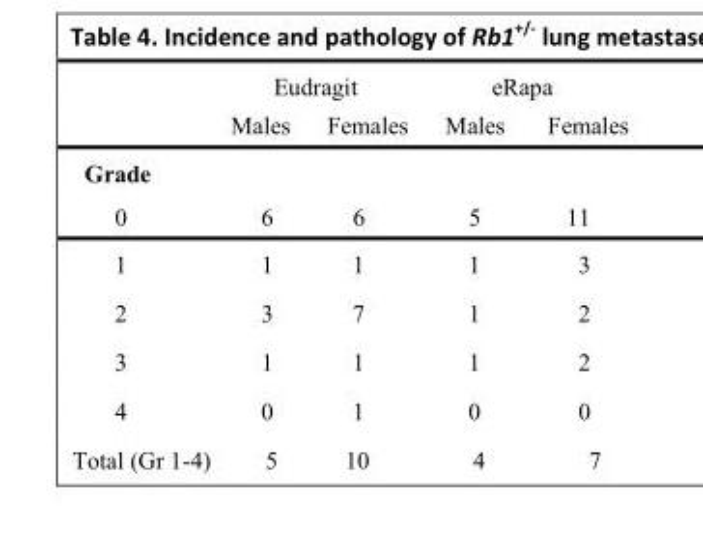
<table><thead><tr><td rowspan="2"></td><td colspan="2">Eudragit</td><td colspan="2">eRapa</td></tr><tr><td>Males</td><td>Females</td><td>Males</td><td>Females</td></tr></thead><tbody><tr><td colspan="5">Grade</td></tr><tr><td>0</td><td>6</td><td>6</td><td>5</td><td>11</td></tr><tr><td>1</td><td>1</td><td>1</td><td>1</td><td>3</td></tr><tr><td>2</td><td>3</td><td>7</td><td>1</td><td>2</td></tr><tr><td>3</td><td>1</td><td>1</td><td>1</td><td>2</td></tr><tr><td>4</td><td>0</td><td>1</td><td>0</td><td>0</td></tr><tr><td>Total (Gr 1-4)</td><td>5</td><td>10</td><td>4</td><td>7</td></tr></tbody></table>